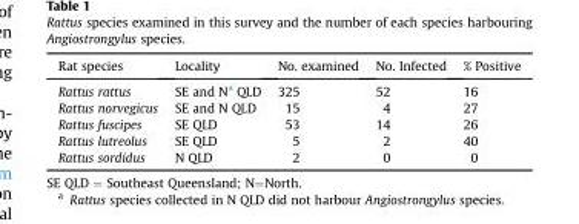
<table><thead><tr><td>Rat species</td><td>Locality</td><td>No. examined</td><td>No. Infected</td><td>% Positive</td></tr></thead><tbody><tr><td>Rattus rattus</td><td>SE and N<sup>a</sup> QLD</td><td>325</td><td>52</td><td>16</td></tr><tr><td>Rattus norvegicus</td><td>SE and N QLD</td><td>15</td><td>4</td><td>27</td></tr><tr><td>Rattus fuscipes</td><td>SE QLD</td><td>53</td><td>14</td><td>26</td></tr><tr><td>Rattus lutreolus</td><td>SE QLD</td><td>5</td><td>2</td><td>40</td></tr><tr><td>Rattus sordidus</td><td>N QLD</td><td>2</td><td>0</td><td>0</td></tr></tbody></table>